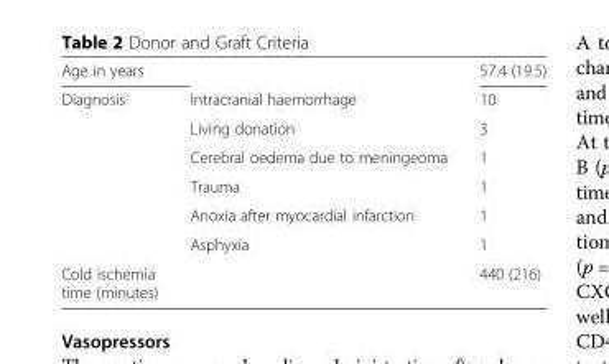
<table><tbody><tr><td>Age in years</td><td></td><td>57.4 (19.5)</td></tr><tr><td rowspan="6">Diagnosis</td><td>Intracranial haemorrhage</td><td>10</td></tr><tr><td>Living donation</td><td>3</td></tr><tr><td>Cerebral oedema due to meningeoma</td><td>1</td></tr><tr><td>Trauma</td><td>1</td></tr><tr><td>Anoxia after myocardial infarction</td><td>1</td></tr><tr><td>Asphyxia</td><td>1</td></tr><tr><td>Cold ischemia time (minutes)</td><td></td><td>440 (216)</td></tr></tbody></table>